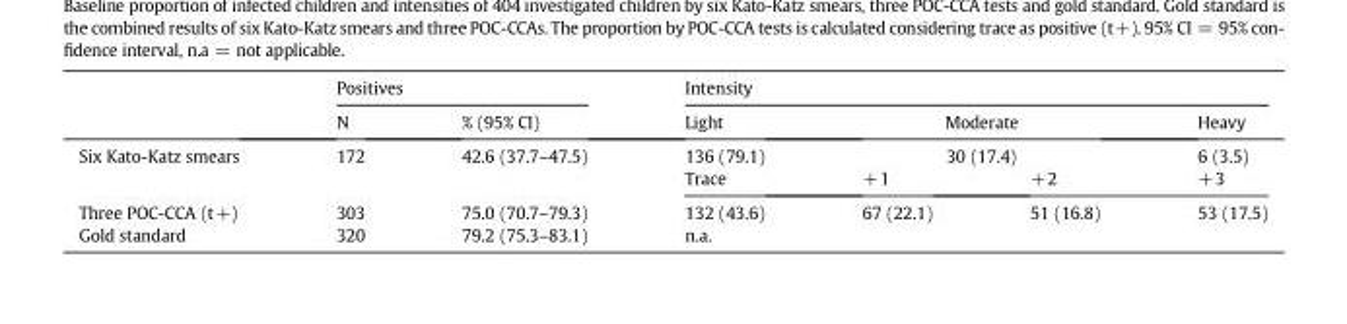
<table><thead><tr><td rowspan="4">Six Kato-Katz smears</td><td colspan="2">Positives</td><td colspan="4">Intensity</td></tr><tr><td rowspan="3">N 172</td><td rowspan="3">% (95% CI) 42.6 (37.7–47.5)</td><td rowspan="3">Light 136 (79.1) Trace</td><td rowspan="2" colspan="2">Moderate 30 (17.4)</td><td rowspan="3">Heavy 6 (3.5) +3</td></tr><tr></tr><tr><td>+1</td><td>+2</td></tr></thead><tbody><tr><td>Three POC-CCA (t+)</td><td>303</td><td>75.0 (70.7–79.3)</td><td>132 (43.6)</td><td>67 (22.1)</td><td>51 (16.8)</td><td>53 (17.5)</td></tr><tr><td>Gold standard</td><td>320</td><td>79.2 (75.3–83.1)</td><td colspan="4">n.a.</td></tr></tbody></table>